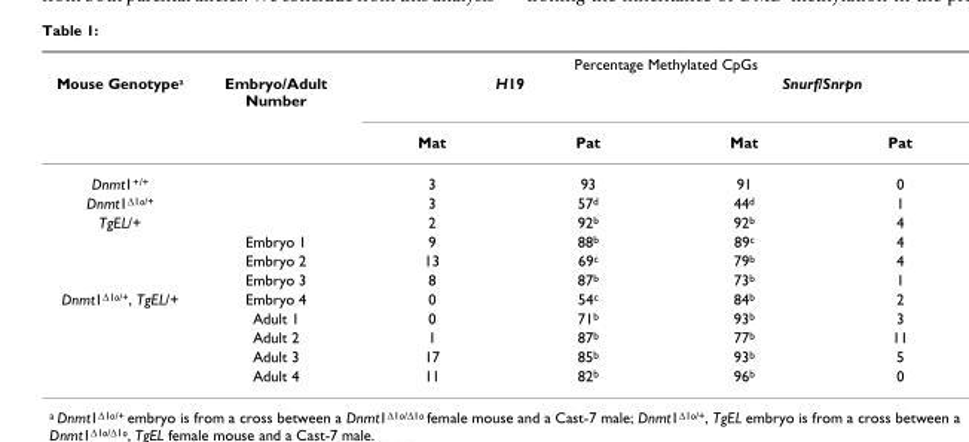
<table><thead><tr><td rowspan="3">Mouse Genotype<sup>a</sup></td><td rowspan="3">Embryo/Adult Number</td><td colspan="4">Percentage Methylated CpGs</td></tr><tr><td colspan="2">H19</td><td colspan="2">Snurf/Snrpn</td></tr><tr><td>Mat</td><td>Pat</td><td>Mat</td><td>Pat</td></tr></thead><tbody><tr><td>Dnmt1<sup>+/+</sup></td><td></td><td>3</td><td>93</td><td>91</td><td>0</td></tr><tr><td>Dnmt1∆1o/+</td><td></td><td>3</td><td>57<sup>d</sup></td><td>44<sup>d</sup></td><td>1</td></tr><tr><td rowspan="4">TgEL/+</td><td></td><td>2</td><td>92<sup>b</sup></td><td>92<sup>b</sup></td><td>4</td></tr><tr><td>Embryo 1</td><td>9</td><td>88<sup>b</sup></td><td>89<sup>c</sup></td><td>4</td></tr><tr><td>Embryo 2</td><td>13</td><td>69<sup>c</sup></td><td>79<sup>b</sup></td><td>4</td></tr><tr><td>Embryo 3</td><td>8</td><td>87<sup>b</sup></td><td>73<sup>b</sup></td><td>1</td></tr><tr><td rowspan="5">Dnmt1∆1o/+, TgEL/+</td><td>Embryo 4</td><td>0</td><td>54<sup>c</sup></td><td>84<sup>b</sup></td><td>2</td></tr><tr><td>Adult 1</td><td>0</td><td>71<sup>b</sup></td><td>93<sup>b</sup></td><td>3</td></tr><tr><td>Adult 2</td><td>1</td><td>87<sup>b</sup></td><td>77<sup>b</sup></td><td>11</td></tr><tr><td>Adult 3</td><td>17</td><td>85<sup>b</sup></td><td>93<sup>b</sup></td><td>5</td></tr><tr><td>Adult 4</td><td>11</td><td>82<sup>b</sup></td><td>96<sup>b</sup></td><td>0</td></tr></tbody></table>